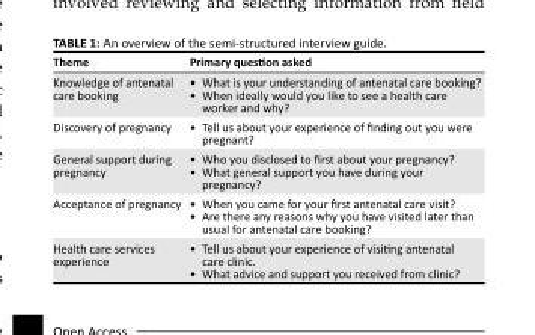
<table><thead><tr><td>Theme</td><td>Primary question asked</td></tr></thead><tbody><tr><td>Knowledge of antenatal care booking</td><td>• What is your understanding of antenatal care booking? • When ideally would you like to see a health care worker and why?</td></tr><tr><td>Discovery of pregnancy</td><td>• Tell us about your experience of finding out you were pregnant?</td></tr><tr><td>General support during pregnancy</td><td>• Who you disclosed to first about your pregnancy? • What general support you have during your pregnancy?</td></tr><tr><td>Acceptance of pregnancy</td><td>• When you came for your first antenatal care visit? • Are there any reasons why you have visited later than usual for antenatal care booking?</td></tr><tr><td>Health care services experience</td><td>• Tell us about your experience of visiting antenatal care clinic. • What advice and support you received from clinic?</td></tr></tbody></table>